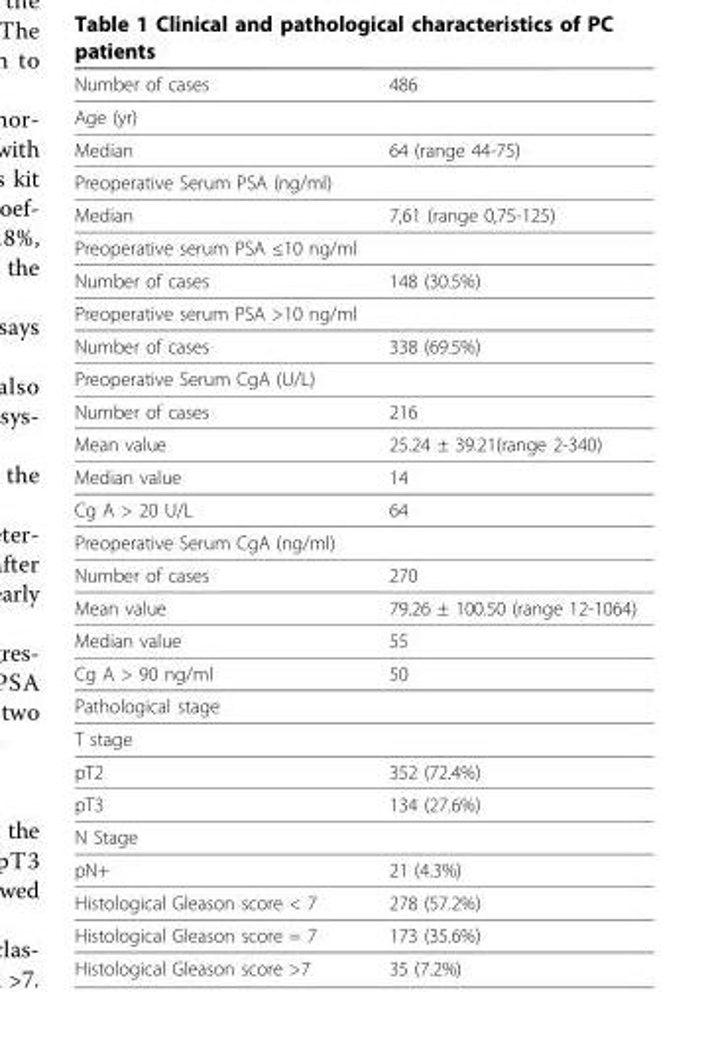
<table><thead><tr><td>Number of cases</td><td>486</td></tr></thead><tbody><tr><td colspan="2">Age (yr)</td></tr><tr><td>Median</td><td>64 (range 44-75)</td></tr><tr><td colspan="2">Preoperative Serum PSA (ng/ml)</td></tr><tr><td>Median</td><td>7,61 (range 0,75-125)</td></tr><tr><td colspan="2">Preoperative serum PSA ≤10 ng/ml</td></tr><tr><td>Number of cases</td><td>148 (30.5%)</td></tr><tr><td colspan="2">Preoperative serum PSA &gt;10 ng/ml</td></tr><tr><td>Number of cases</td><td>338 (69.5%)</td></tr><tr><td colspan="2">Preoperative Serum CgA (U/L)</td></tr><tr><td>Number of cases</td><td>216</td></tr><tr><td>Mean value</td><td>25.24 ± 39.21(range 2-340)</td></tr><tr><td>Median value</td><td>14</td></tr><tr><td>Cg A &gt; 20 U/L</td><td>64</td></tr><tr><td colspan="2">Preoperative Serum CgA (ng/ml)</td></tr><tr><td>Number of cases</td><td>270</td></tr><tr><td>Mean value</td><td>79.26 ± 100.50 (range 12-1064)</td></tr><tr><td>Median value</td><td>55</td></tr><tr><td>Cg A &gt; 90 ng/ml</td><td>50</td></tr><tr><td colspan="2">Pathological stage</td></tr><tr><td colspan="2">T stage</td></tr><tr><td>pT2</td><td>352 (72.4%)</td></tr><tr><td>pT3</td><td>134 (27.6%)</td></tr><tr><td colspan="2">N Stage</td></tr><tr><td>pN+</td><td>21 (4.3%)</td></tr><tr><td>Histological Gleason score &lt; 7</td><td>278 (57.2%)</td></tr><tr><td>Histological Gleason score = 7</td><td>173 (35.6%)</td></tr><tr><td>Histological Gleason score &gt;7</td><td>35 (7.2%)</td></tr></tbody></table>